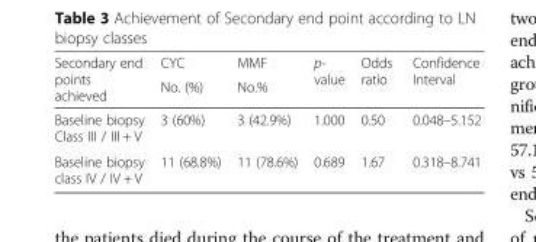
<table><thead><tr><td rowspan="2">Secondary end points achieved</td><td rowspan="2">CYC No. (%)</td><td rowspan="2">MMF No.%</td><td rowspan="2">p- value</td><td rowspan="2">Odds ratio</td><td rowspan="2">Confidence Interval</td></tr><tr></tr></thead><tbody><tr><td>Baseline biopsy Class III / III + V</td><td>3 (60%)</td><td>3 (42.9%)</td><td>1.000</td><td>0.50</td><td>0.048–5.152</td></tr><tr><td>Baseline biopsy class IV / IV + V</td><td>11 (68.8%)</td><td>11 (78.6%)</td><td>0.689</td><td>1.67</td><td>0.318–8.741</td></tr></tbody></table>